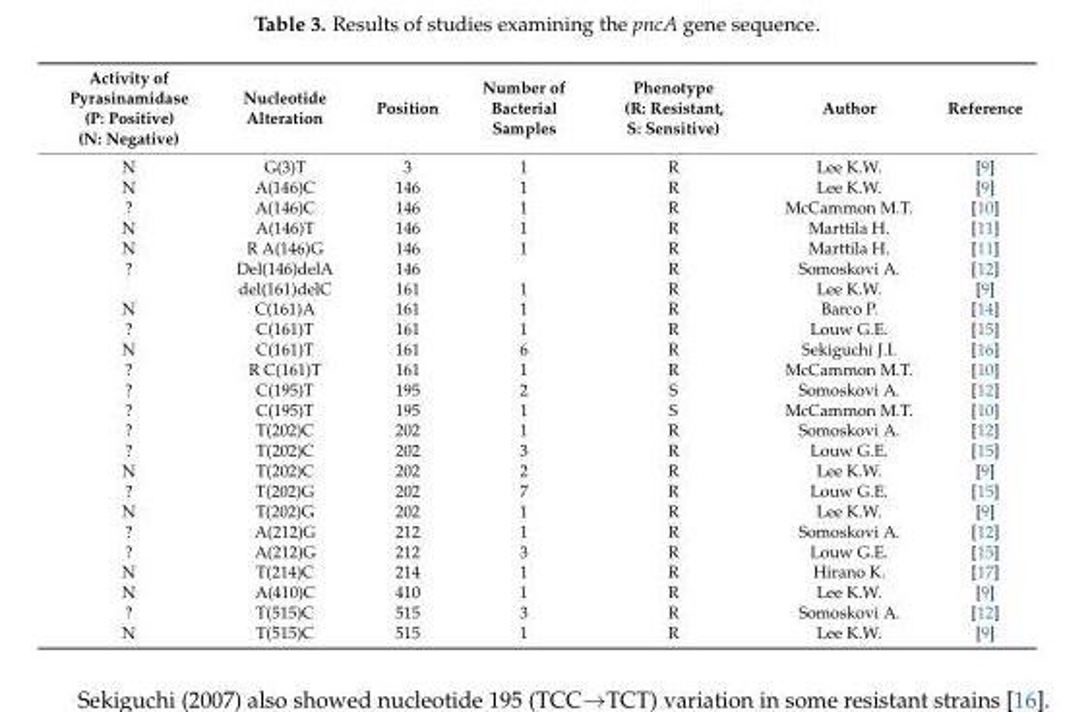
<table><thead><tr><td>Activity of Pyrasinamidase (P: Positive) (N: Negative)</td><td>Nucleotide Alteration</td><td>Position</td><td>Number of Bacterial Samples</td><td>Phenotype (R: Resistant, S: Sensitive)</td><td>Author</td><td>Reference</td></tr></thead><tbody><tr><td>N</td><td>G(3)T</td><td>3</td><td>1</td><td>R</td><td>Lee K.W.</td><td>[9]</td></tr><tr><td>N</td><td>A(146)C</td><td>146</td><td>1</td><td>R</td><td>Lee K.W.</td><td>[9]</td></tr><tr><td>?</td><td>A(146)C</td><td>146</td><td>1</td><td>R</td><td>McCammon M.T.</td><td>[10]</td></tr><tr><td>N</td><td>A(146)T</td><td>146</td><td>1</td><td>R</td><td>Marttila H.</td><td>[11]</td></tr><tr><td>N</td><td>R A(146)G</td><td>146</td><td>1</td><td>R</td><td>Marttila H.</td><td>[11]</td></tr><tr><td rowspan="2">?</td><td>Del(146)delA</td><td>146</td><td></td><td>R</td><td>Somoskovi A.</td><td>[12]</td></tr><tr><td>del(161)delC</td><td>161</td><td>1</td><td>R</td><td>Lee K.W.</td><td>[9]</td></tr><tr><td>N</td><td>C(161)A</td><td>161</td><td>1</td><td>R</td><td>Barco P.</td><td>[14]</td></tr><tr><td>?</td><td>C(161)T</td><td>161</td><td>1</td><td>R</td><td>Louw G.E.</td><td>[15]</td></tr><tr><td>N</td><td>C(161)T</td><td>161</td><td>6</td><td>R</td><td>Sekiguchi J.I.</td><td>[16]</td></tr><tr><td>?</td><td>R C(161)T</td><td>161</td><td>1</td><td>R</td><td>McCammon M.T.</td><td>[10]</td></tr><tr><td>?</td><td>C(195)T</td><td>195</td><td>2</td><td>S</td><td>Somoskovi A.</td><td>[12]</td></tr><tr><td>?</td><td>C(195)T</td><td>195</td><td>1</td><td>S</td><td>McCammon M.T.</td><td>[10]</td></tr><tr><td>?</td><td>T(202)C</td><td>202</td><td>1</td><td>R</td><td>Somoskovi A.</td><td>[12]</td></tr><tr><td>?</td><td>T(202)C</td><td>202</td><td>3</td><td>R</td><td>Louw G.E.</td><td>[15]</td></tr><tr><td>N</td><td>T(202)C</td><td>202</td><td>2</td><td>R</td><td>Lee K.W.</td><td>[9]</td></tr><tr><td>?</td><td>T(202)G</td><td>202</td><td>7</td><td>R</td><td>Louw G.E.</td><td>[15]</td></tr><tr><td>N</td><td>T(202)G</td><td>202</td><td>1</td><td>R</td><td>Lee K.W.</td><td>[9]</td></tr><tr><td>?</td><td>A(212)G</td><td>212</td><td>1</td><td>R</td><td>Somoskovi A.</td><td>[12]</td></tr><tr><td>?</td><td>A(212)G</td><td>212</td><td>3</td><td>R</td><td>Louw G.E.</td><td>[15]</td></tr><tr><td>N</td><td>T(214)C</td><td>214</td><td>1</td><td>R</td><td>Hirano K.</td><td>[17]</td></tr><tr><td>N</td><td>A(410)C</td><td>410</td><td>1</td><td>R</td><td>Lee K.W.</td><td>[9]</td></tr><tr><td>?</td><td>T(515)C</td><td>515</td><td>3</td><td>R</td><td>Somoskovi A.</td><td>[12]</td></tr><tr><td>N</td><td>T(515)C</td><td>515</td><td>1</td><td>R</td><td>Lee K.W.</td><td>[9]</td></tr></tbody></table>